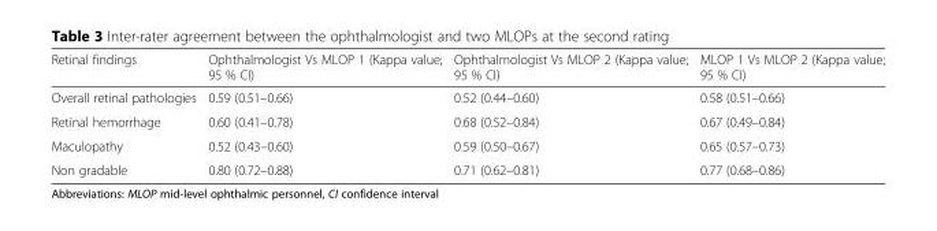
<table><thead><tr><td>Retinal findings</td><td>Ophthalmologist Vs MLOP 1 (Kappa value; 95 % CI)</td><td>Ophthalmologist Vs MLOP 2 (Kappa value; 95 % CI)</td><td>MLOP 1 Vs MLOP 2 (Kappa value; 95 % CI)</td></tr></thead><tbody><tr><td>Overall retinal pathologies</td><td>0.59 (0.51–0.66)</td><td>0.52 (0.44–0.60)</td><td>0.58 (0.51–0.66)</td></tr><tr><td>Retinal hemorrhage</td><td>0.60 (0.41–0.78)</td><td>0.68 (0.52–0.84)</td><td>0.67 (0.49–0.84)</td></tr><tr><td>Maculopathy</td><td>0.52 (0.43–0.60)</td><td>0.59 (0.50–0.67)</td><td>0.65 (0.57–0.73)</td></tr><tr><td>Non gradable</td><td>0.80 (0.72–0.88)</td><td>0.71 (0.62–0.81)</td><td>0.77 (0.68–0.86)</td></tr></tbody></table>